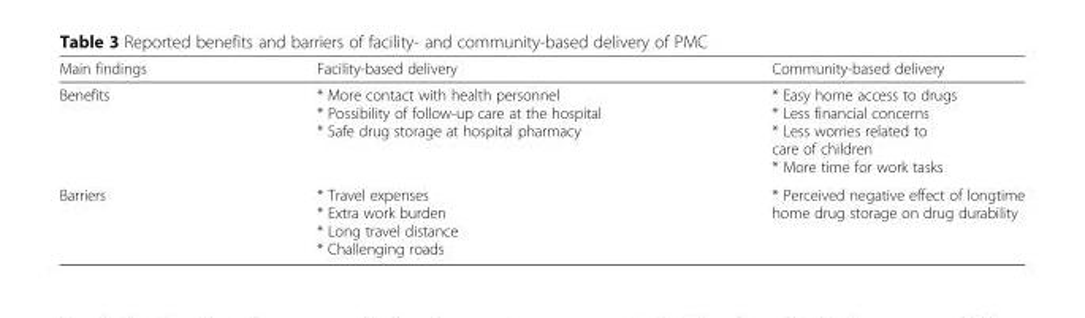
<table><thead><tr><td>Main findings</td><td>Facility-based delivery</td><td>Community-based delivery</td></tr></thead><tbody><tr><td>Benefits</td><td>* More contact with health personnel * Possibility of follow-up care at the hospital * Safe drug storage at hospital pharmacy</td><td>* Easy home access to drugs * Less financial concerns * Less worries related to care of children * More time for work tasks</td></tr><tr><td>Barriers</td><td>* Travel expenses * Extra work burden * Long travel distance * Challenging roads</td><td>* Perceived negative effect of longtime home drug storage on drug durability</td></tr></tbody></table>